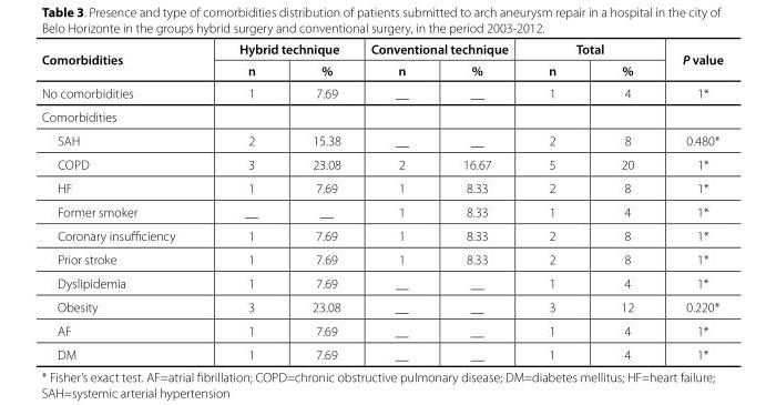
<table><thead><tr><td rowspan="2">Comorbidities</td><td colspan="2">Hybrid technique</td><td colspan="2">Conventional technique</td><td colspan="2">Total</td><td rowspan="2">P value</td></tr><tr><td>n</td><td>%</td><td>n</td><td>%</td><td>n</td><td>%</td></tr></thead><tbody><tr><td>No comorbidities</td><td>1</td><td>7.69</td><td>__</td><td>__</td><td>1</td><td>4</td><td>1*</td></tr><tr><td colspan="8">Comorbidities</td></tr><tr><td>SAH</td><td>2</td><td>15.38</td><td>__</td><td>__</td><td>2</td><td>8</td><td>0.480*</td></tr><tr><td>COPD</td><td>3</td><td>23.08</td><td>2</td><td>16.67</td><td>5</td><td>20</td><td>1*</td></tr><tr><td>HF</td><td>1</td><td>7.69</td><td>1</td><td>8.33</td><td>2</td><td>8</td><td>1*</td></tr><tr><td>Former smoker</td><td>__</td><td>__</td><td>1</td><td>8.33</td><td>1</td><td>4</td><td>1*</td></tr><tr><td>Coronary insufficiency</td><td>1</td><td>7.69</td><td>1</td><td>8.33</td><td>2</td><td>8</td><td>1*</td></tr><tr><td>Prior stroke</td><td>1</td><td>7.69</td><td>1</td><td>8.33</td><td>2</td><td>8</td><td>1*</td></tr><tr><td>Dyslipidemia</td><td>1</td><td>7.69</td><td>__</td><td>__</td><td>1</td><td>4</td><td>1*</td></tr><tr><td>Obesity</td><td>3</td><td>23.08</td><td>__</td><td>__</td><td>3</td><td>12</td><td>0.220*</td></tr><tr><td>AF</td><td>1</td><td>7.69</td><td>__</td><td>__</td><td>1</td><td>4</td><td>1*</td></tr><tr><td>DM</td><td>1</td><td>7.69</td><td>__</td><td>__</td><td>1</td><td>4</td><td>1*</td></tr></tbody></table>